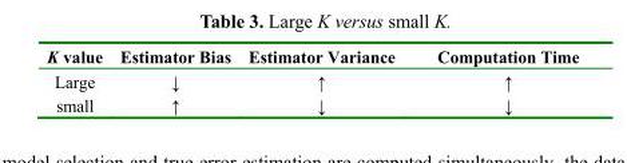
<table><thead><tr><td>K value</td><td>Estimator Bias</td><td>Estimator Variance</td><td>Computation Time</td></tr></thead><tbody><tr><td>Large</td><td>↓</td><td>↑</td><td>↑</td></tr><tr><td>small</td><td>↑</td><td>↓</td><td>↓</td></tr></tbody></table>